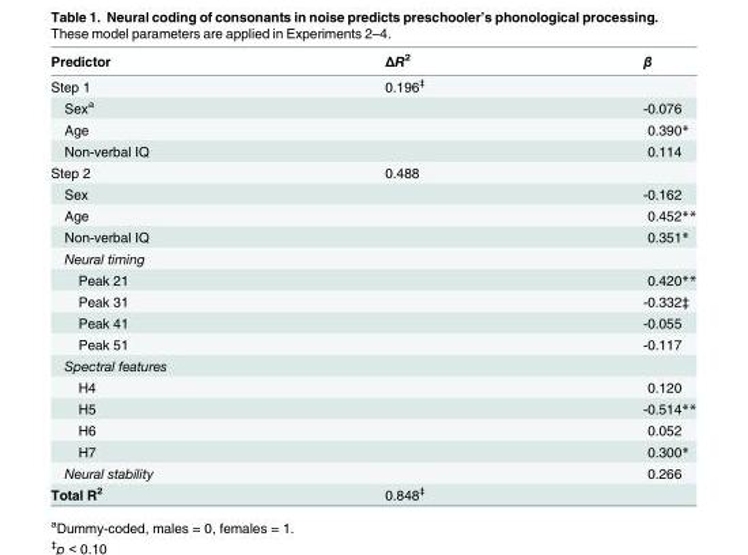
<table><thead><tr><td>Predictor</td><td>ΔR<sup>2</sup></td><td>β</td></tr></thead><tbody><tr><td>Step 1</td><td>0.196<sup>‡</sup></td><td></td></tr><tr><td>Sex<sup>a</sup></td><td></td><td>-0.076</td></tr><tr><td>Age</td><td></td><td>0.390*</td></tr><tr><td>Non-verbal IQ</td><td></td><td>0.114</td></tr><tr><td>Step 2</td><td>0.488</td><td></td></tr><tr><td>Sex</td><td></td><td>-0.162</td></tr><tr><td>Age</td><td></td><td>0.452**</td></tr><tr><td>Non-verbal IQ</td><td></td><td>0.351*</td></tr><tr><td colspan="3">Neural timing</td></tr><tr><td>Peak 21</td><td></td><td>0.420**</td></tr><tr><td>Peak 31</td><td></td><td>-0.332‡</td></tr><tr><td>Peak 41</td><td></td><td>-0.055</td></tr><tr><td>Peak 51</td><td></td><td>-0.117</td></tr><tr><td colspan="3">Spectral features</td></tr><tr><td>H4</td><td></td><td>0.120</td></tr><tr><td>H5</td><td></td><td>-0.514**</td></tr><tr><td>H6</td><td></td><td>0.052</td></tr><tr><td>H7</td><td></td><td>0.300*</td></tr><tr><td>Neural stability</td><td></td><td>0.266</td></tr><tr><td>Total R<sup>2</sup></td><td>0.848<sup>‡</sup></td><td></td></tr></tbody></table>